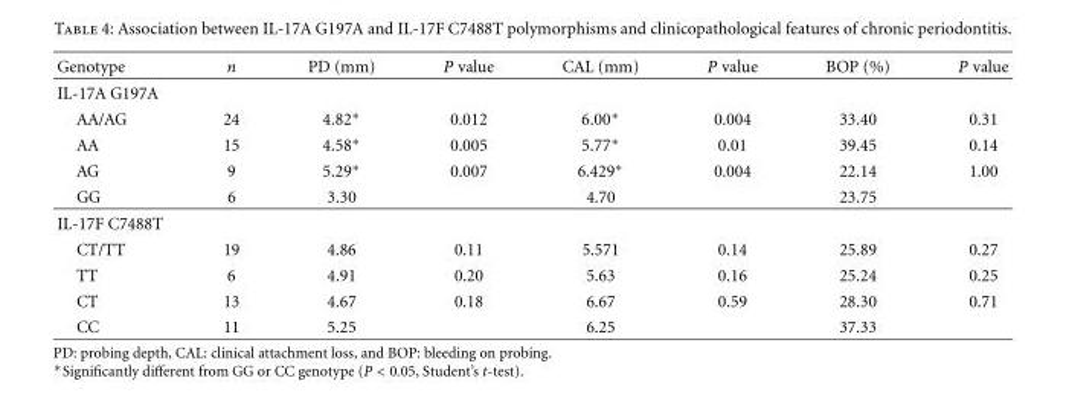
<table><thead><tr><td>Genotype</td><td>n</td><td>PD (mm)</td><td>P value</td><td>CAL (mm)</td><td>P value</td><td>BOP (%)</td><td>P value</td></tr></thead><tbody><tr><td colspan="8">IL-17A G197A</td></tr><tr><td>AA/AG</td><td>24</td><td>4.82∗</td><td>0.012</td><td>6.00∗</td><td>0.004</td><td>33.40</td><td>0.31</td></tr><tr><td>AA</td><td>15</td><td>4.58∗</td><td>0.005</td><td>5.77∗</td><td>0.01</td><td>39.45</td><td>0.14</td></tr><tr><td>AG</td><td>9</td><td>5.29∗</td><td>0.007</td><td>6.429∗</td><td>0.004</td><td>22.14</td><td>1.00</td></tr><tr><td>GG</td><td>6</td><td>3.30</td><td></td><td>4.70</td><td></td><td>23.75</td><td></td></tr><tr><td colspan="8">IL-17F C7488T</td></tr><tr><td>CT/TT</td><td>19</td><td>4.86</td><td>0.11</td><td>5.571</td><td>0.14</td><td>25.89</td><td>0.27</td></tr><tr><td>TT</td><td>6</td><td>4.91</td><td>0.20</td><td>5.63</td><td>0.16</td><td>25.24</td><td>0.25</td></tr><tr><td>CT</td><td>13</td><td>4.67</td><td>0.18</td><td>6.67</td><td>0.59</td><td>28.30</td><td>0.71</td></tr><tr><td>CC</td><td>11</td><td>5.25</td><td></td><td>6.25</td><td></td><td>37.33</td><td></td></tr></tbody></table>